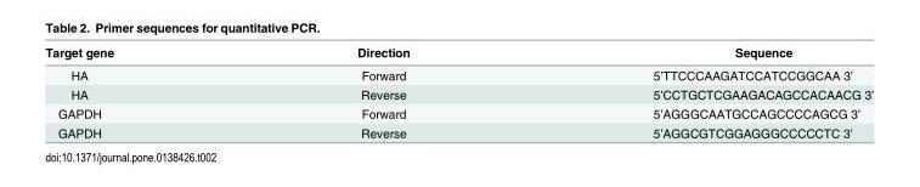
<table><thead><tr><td>Target gene</td><td>Direction</td><td>Sequence</td></tr></thead><tbody><tr><td>HA</td><td>Forward</td><td>5’TTCCCAAGATCCATCCGGCAA 3’</td></tr><tr><td>HA</td><td>Reverse</td><td>5’CCTGCTCGAAGACAGCCACAACG 3’</td></tr><tr><td>GAPDH</td><td>Forward</td><td>5’AGGGCAATGCCAGCCCCAGCG 3’</td></tr><tr><td>GAPDH</td><td>Reverse</td><td>5’AGGCGTCGGAGGGCCCCCTC 3’</td></tr></tbody></table>